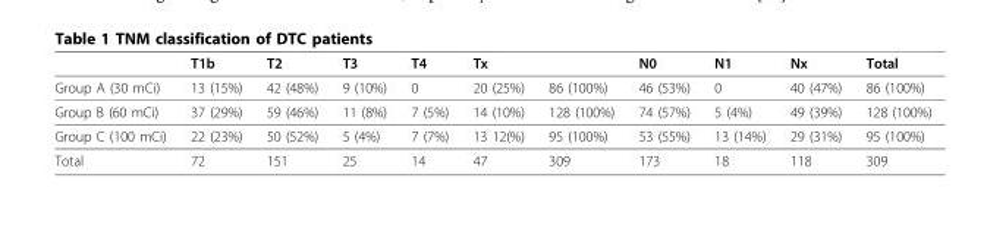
<table><thead><tr><td></td><td>T1b</td><td>T2</td><td>T3</td><td>T4</td><td>Tx</td><td></td><td>N0</td><td>N1</td><td>Nx</td><td>Total</td></tr></thead><tbody><tr><td>Group A (30 mCi)</td><td>13 (15%)</td><td>42 (48%)</td><td>9 (10%)</td><td>0</td><td>20 (25%)</td><td>86 (100%)</td><td>46 (53%)</td><td>0</td><td>40 (47%)</td><td>86 (100%)</td></tr><tr><td>Group B (60 mCi)</td><td>37 (29%)</td><td>59 (46%)</td><td>11 (8%)</td><td>7 (5%)</td><td>14 (10%)</td><td>128 (100%)</td><td>74 (57%)</td><td>5 (4%)</td><td>49 (39%)</td><td>128 (100%)</td></tr><tr><td>Group C (100 mCi)</td><td>22 (23%)</td><td>50 (52%)</td><td>5 (4%)</td><td>7 (7%)</td><td>13 12(%)</td><td>95 (100%)</td><td>53 (55%)</td><td>13 (14%)</td><td>29 (31%)</td><td>95 (100%)</td></tr><tr><td>Total</td><td>72</td><td>151</td><td>25</td><td>14</td><td>47</td><td>309</td><td>173</td><td>18</td><td>118</td><td>309</td></tr></tbody></table>